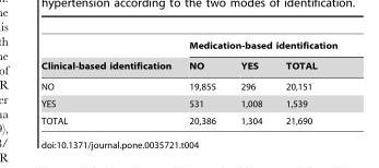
<table><thead><tr><td rowspan="2">Clinical-based identification</td><td colspan="3">Medication-based identification</td></tr><tr><td>NO</td><td>YES</td><td>TOTAL</td></tr></thead><tbody><tr><td>NO</td><td>19,855</td><td>296</td><td>20,151</td></tr><tr><td>YES</td><td>531</td><td>1,008</td><td>1,539</td></tr><tr><td>TOTAL</td><td>20,386</td><td>1,304</td><td>21,690</td></tr></tbody></table>